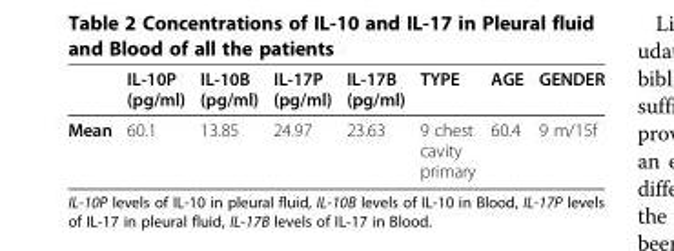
<table><thead><tr><td></td><td>IL-10P (pg/ml)</td><td>IL-10B (pg/ml)</td><td>IL-17P (pg/ml)</td><td>IL-17B (pg/ml)</td><td>TYPE</td><td>AGE</td><td>GENDER</td></tr></thead><tbody><tr><td>Mean</td><td>60.1</td><td>13.85</td><td>24.97</td><td>23.63</td><td>9 chest cavity primary</td><td>60.4</td><td>9 m/15f</td></tr></tbody></table>